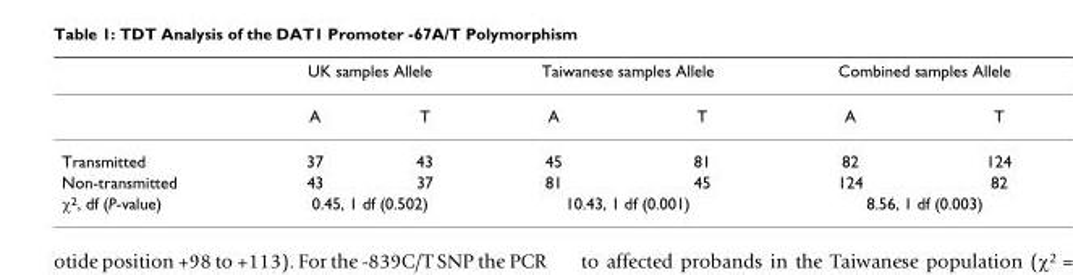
<table><thead><tr><td rowspan="2"></td><td colspan="2">UK samples Allele</td><td colspan="2">Taiwanese samples Allele</td><td colspan="2">Combined samples Allele</td></tr><tr><td>A</td><td>T</td><td>A</td><td>T</td><td>A</td><td>T</td></tr></thead><tbody><tr><td>Transmitted</td><td>37</td><td>43</td><td>45</td><td>81</td><td>82</td><td>124</td></tr><tr><td>Non-transmitted</td><td>43</td><td>37</td><td>81</td><td>45</td><td>124</td><td>82</td></tr><tr><td>χ<sup>2</sup>, df (P-value)</td><td colspan="2">0.45, 1 df (0.502)</td><td colspan="2">10.43, 1 df (0.001)</td><td colspan="2">8.56, 1 df (0.003)</td></tr></tbody></table>